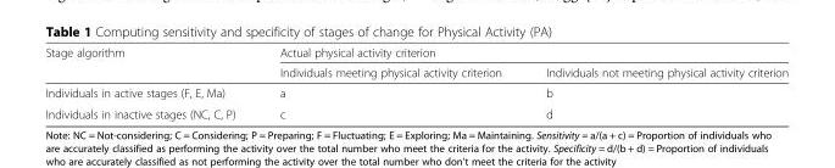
<table><thead><tr><td rowspan="2">Stage algorithm</td><td colspan="2">Actual physical activity criterion</td></tr><tr><td>Individuals meeting physical activity criterion</td><td>Individuals not meeting physical activity criterion</td></tr></thead><tbody><tr><td>Individuals in active stages (F, E, Ma)</td><td>a</td><td>b</td></tr><tr><td>Individuals in inactive stages (NC, C, P)</td><td>c</td><td>d</td></tr></tbody></table>